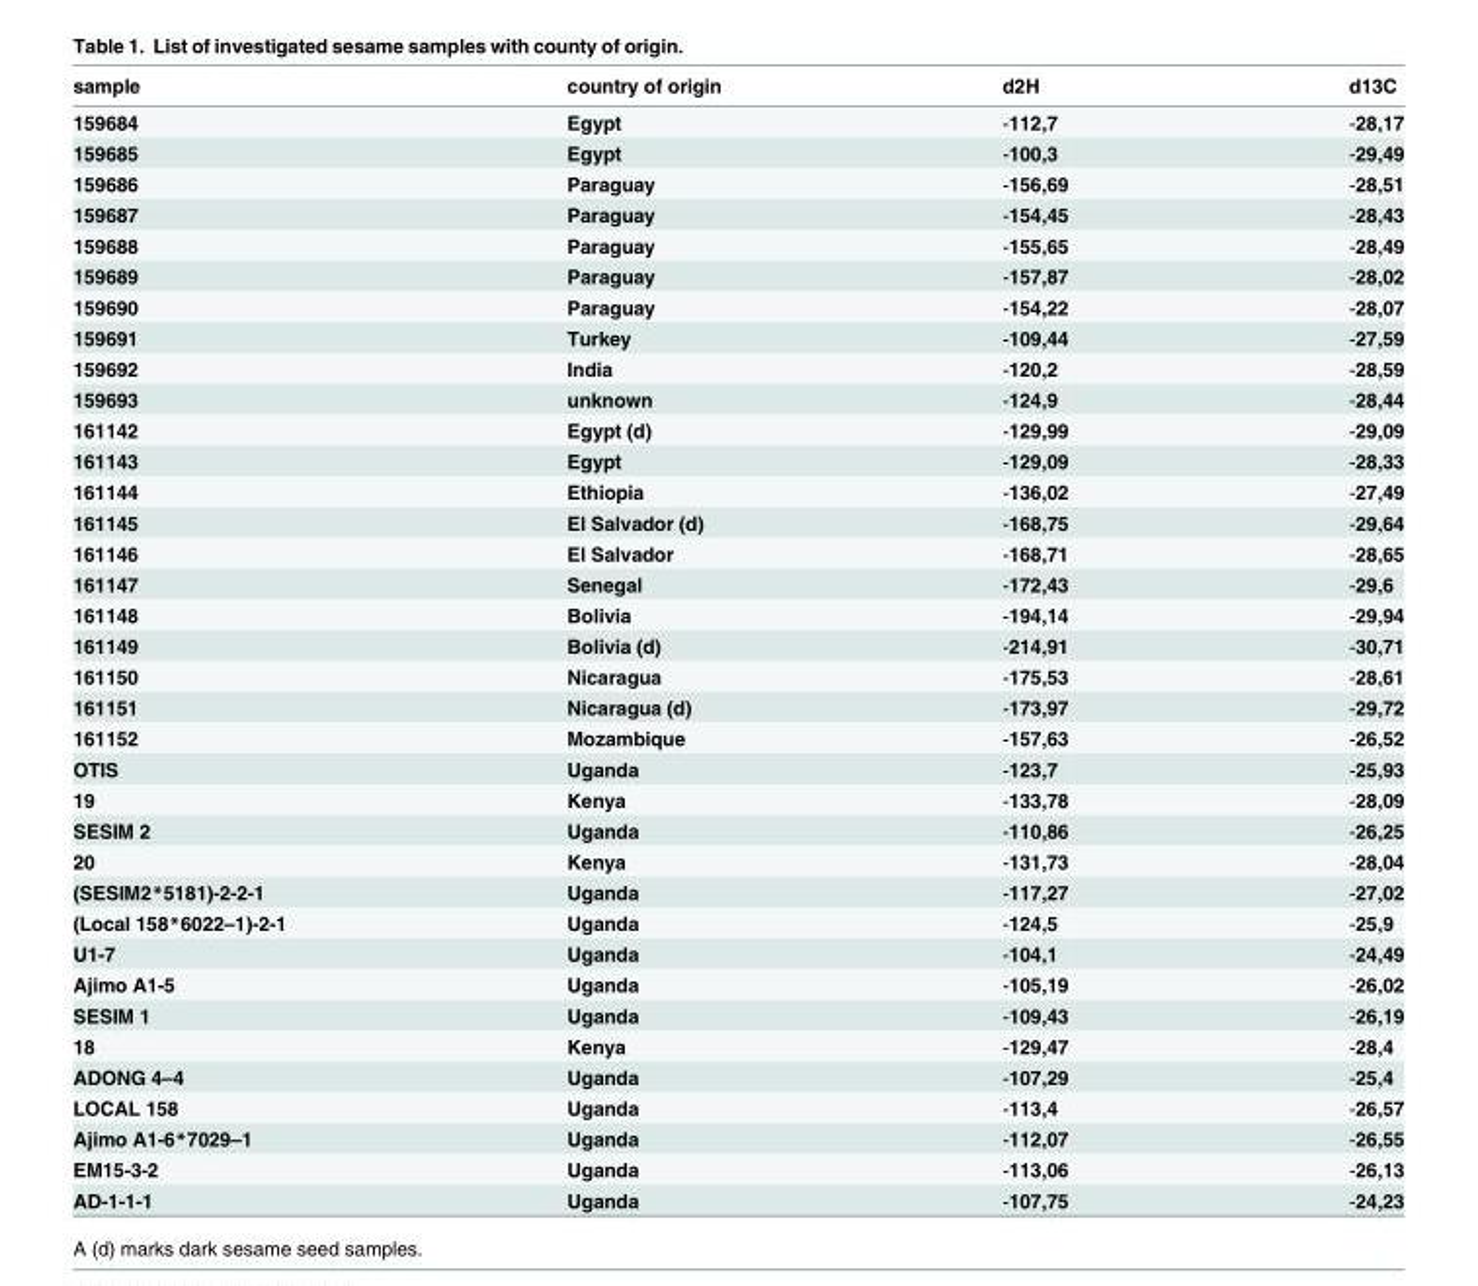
<table><thead><tr><td>sample</td><td>country of origin</td><td>d2H</td><td>d13C</td></tr></thead><tbody><tr><td>159684</td><td>Egypt</td><td>-112,7</td><td>-28,17</td></tr><tr><td>159685</td><td>Egypt</td><td>-100,3</td><td>-29,49</td></tr><tr><td>159686</td><td>Paraguay</td><td>-156,69</td><td>-28,51</td></tr><tr><td>159687</td><td>Paraguay</td><td>-154,45</td><td>-28,43</td></tr><tr><td>159688</td><td>Paraguay</td><td>-155,65</td><td>-28,49</td></tr><tr><td>159689</td><td>Paraguay</td><td>-157,87</td><td>-28,02</td></tr><tr><td>159690</td><td>Paraguay</td><td>-154,22</td><td>-28,07</td></tr><tr><td>159691</td><td>Turkey</td><td>-109,44</td><td>-27,59</td></tr><tr><td>159692</td><td>India</td><td>-120,2</td><td>-28,59</td></tr><tr><td>159693</td><td>unknown</td><td>-124,9</td><td>-28,44</td></tr><tr><td>161142</td><td>Egypt (d)</td><td>-129,99</td><td>-29,09</td></tr><tr><td>161143</td><td>Egypt</td><td>-129,09</td><td>-28,33</td></tr><tr><td>161144</td><td>Ethiopia</td><td>-136,02</td><td>-27,49</td></tr><tr><td>161145</td><td>El Salvador (d)</td><td>-168,75</td><td>-29,64</td></tr><tr><td>161146</td><td>El Salvador</td><td>-168,71</td><td>-28,65</td></tr><tr><td>161147</td><td>Senegal</td><td>-172,43</td><td>-29,6</td></tr><tr><td>161148</td><td>Bolivia</td><td>-194,14</td><td>-29,94</td></tr><tr><td>161149</td><td>Bolivia (d)</td><td>-214,91</td><td>-30,71</td></tr><tr><td>161150</td><td>Nicaragua</td><td>-175,53</td><td>-28,61</td></tr><tr><td>161151</td><td>Nicaragua (d)</td><td>-173,97</td><td>-29,72</td></tr><tr><td>161152</td><td>Mozambique</td><td>-157,63</td><td>-26,52</td></tr><tr><td>OTIS</td><td>Uganda</td><td>-123,7</td><td>-25,93</td></tr><tr><td>19</td><td>Kenya</td><td>-133,78</td><td>-28,09</td></tr><tr><td>SESIM 2</td><td>Uganda</td><td>-110,86</td><td>-26,25</td></tr><tr><td>20</td><td>Kenya</td><td>-131,73</td><td>-28,04</td></tr><tr><td>(SESIM2*5181)-2-2-1</td><td>Uganda</td><td>-117,27</td><td>-27,02</td></tr><tr><td>(Local 158*6022–1)-2-1</td><td>Uganda</td><td>-124,5</td><td>-25,9</td></tr><tr><td>U1-7</td><td>Uganda</td><td>-104,1</td><td>-24,49</td></tr><tr><td>Ajimo A1-5</td><td>Uganda</td><td>-105,19</td><td>-26,02</td></tr><tr><td>SESIM 1</td><td>Uganda</td><td>-109,43</td><td>-26,19</td></tr><tr><td>18</td><td>Kenya</td><td>-129,47</td><td>-28,4</td></tr><tr><td>ADONG 4–4</td><td>Uganda</td><td>-107,29</td><td>-25,4</td></tr><tr><td>LOCAL 158</td><td>Uganda</td><td>-113,4</td><td>-26,57</td></tr><tr><td>Ajimo A1-6*7029–1</td><td>Uganda</td><td>-112,07</td><td>-26,55</td></tr><tr><td>EM15-3-2</td><td>Uganda</td><td>-113,06</td><td>-26,13</td></tr><tr><td>AD-1-1-1</td><td>Uganda</td><td>-107,75</td><td>-24,23</td></tr></tbody></table>